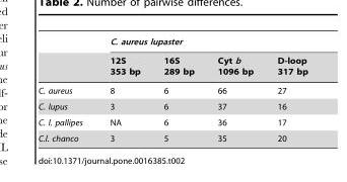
<table><thead><tr><td rowspan="2"></td><td colspan="4">C. aureus lupaster</td></tr><tr><td>12S 353 bp</td><td>16S 289 bp</td><td>Cyt b 1096 bp</td><td>D-loop 317 bp</td></tr></thead><tbody><tr><td>C. aureus</td><td>8</td><td>6</td><td>66</td><td>27</td></tr><tr><td>C. lupus</td><td>3</td><td>6</td><td>37</td><td>16</td></tr><tr><td>C. l. pallipes</td><td>NA</td><td>6</td><td>36</td><td>17</td></tr><tr><td>C.l. chanco</td><td>3</td><td>5</td><td>35</td><td>20</td></tr></tbody></table>